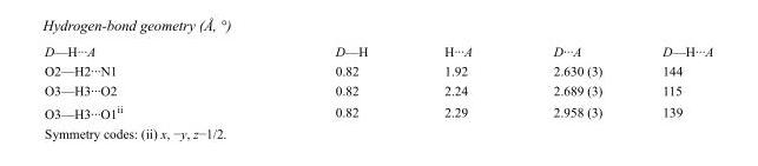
<table><tbody><tr><td>D—H···A</td><td>D—H</td><td>H···A</td><td>D···A</td><td>D—H···A</td></tr><tr><td>O2—H2···N1</td><td>0.82</td><td>1.92</td><td>2.630 (3)</td><td>144</td></tr><tr><td>O3—H3···O2</td><td>0.82</td><td>2.24</td><td>2.689 (3)</td><td>115</td></tr><tr><td>O3—H3···O1<sup>ii</sup></td><td>0.82</td><td>2.29</td><td>2.958 (3)</td><td>139</td></tr></tbody></table>